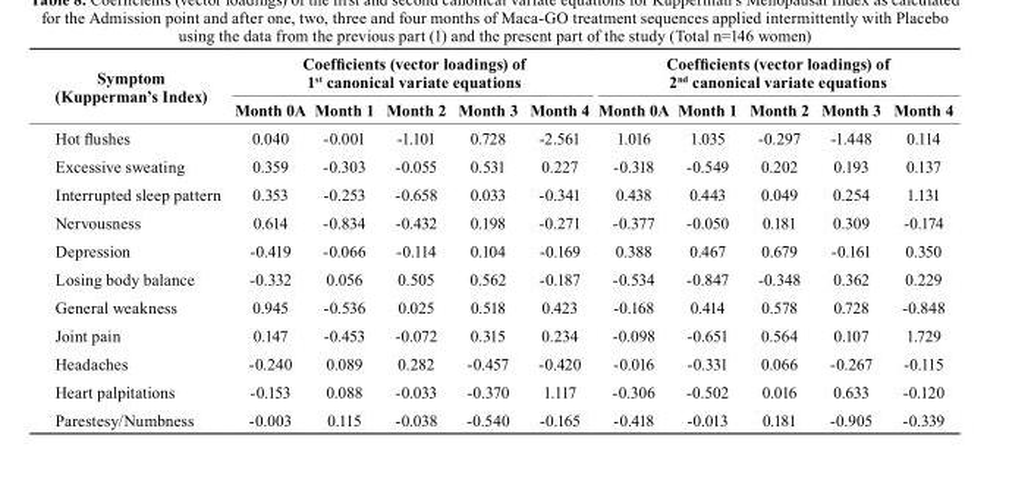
<table><thead><tr><td rowspan="2">symptom (Kupperman’s Index)</td><td colspan="5">Coefficients (vector loadings) of 1<sup>st</sup> canonical variate equations</td><td colspan="5">Coefficients (vector loadings) of 2<sup>nd</sup> canonical variate equations</td></tr><tr><td>Month 0A</td><td>Month 1</td><td>Month 2</td><td>Month 3</td><td>Month 4</td><td>Month 0A</td><td>Month 1</td><td>Month 2</td><td>Month 3</td><td>Month 4</td></tr></thead><tbody><tr><td>Hot flushes</td><td>0.040</td><td>-0.001</td><td>-1.101</td><td>0.728</td><td>-2.561</td><td>1.016</td><td>1.035</td><td>-0.297</td><td>-1.448</td><td>0.114</td></tr><tr><td>Excessive sweating</td><td>0.359</td><td>-0.303</td><td>-0.055</td><td>0.531</td><td>0.227</td><td>-0.318</td><td>-0.549</td><td>0.202</td><td>0.193</td><td>0.137</td></tr><tr><td>Interrupted sleep pattern</td><td>0.353</td><td>-0.253</td><td>-0.658</td><td>0.033</td><td>-0.341</td><td>0.438</td><td>0.443</td><td>0.049</td><td>0.254</td><td>1.131</td></tr><tr><td>Nervousness</td><td>0.614</td><td>-0.834</td><td>-0.432</td><td>0.198</td><td>-0.271</td><td>-0.377</td><td>-0.050</td><td>0.181</td><td>0.309</td><td>-0.174</td></tr><tr><td>Depression</td><td>-0.419</td><td>-0.066</td><td>-0.114</td><td>0.104</td><td>-0.169</td><td>0.388</td><td>0.467</td><td>0.679</td><td>-0.161</td><td>0.350</td></tr><tr><td>Losing body balance</td><td>-0.332</td><td>0.056</td><td>0.505</td><td>0.562</td><td>-0.187</td><td>-0.534</td><td>-0.847</td><td>-0.348</td><td>0.362</td><td>0.229</td></tr><tr><td>General weakness</td><td>0.945</td><td>-0.536</td><td>0.025</td><td>0.518</td><td>0.423</td><td>-0.168</td><td>0.414</td><td>0.578</td><td>0.728</td><td>-0.848</td></tr><tr><td>Joint pain</td><td>0.147</td><td>-0.453</td><td>-0.072</td><td>0.315</td><td>0.234</td><td>-0.098</td><td>-0.651</td><td>0.564</td><td>0.107</td><td>1.729</td></tr><tr><td>Headaches</td><td>-0.240</td><td>0.089</td><td>0.282</td><td>-0.457</td><td>-0.420</td><td>-0.016</td><td>-0.331</td><td>0.066</td><td>-0.267</td><td>-0.115</td></tr><tr><td>Heart palpitations</td><td>-0.153</td><td>0.088</td><td>-0.033</td><td>-0.370</td><td>1.117</td><td>-0.306</td><td>-0.502</td><td>0.016</td><td>0.633</td><td>-0.120</td></tr><tr><td>Parestesy/Numbness</td><td>-0.003</td><td>0.115</td><td>-0.038</td><td>-0.540</td><td>-0.165</td><td>-0.418</td><td>-0.013</td><td>0.181</td><td>-0.905</td><td>-0.339</td></tr></tbody></table>